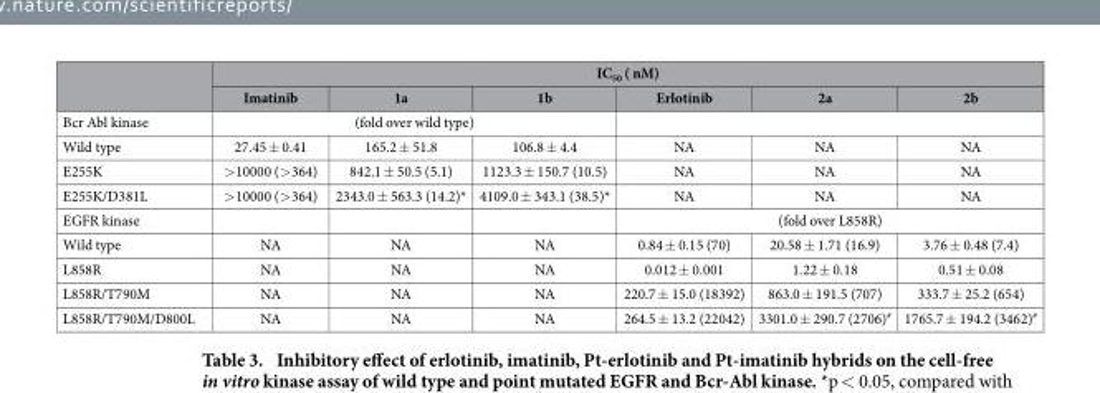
<table><thead><tr><td rowspan="2"></td><td colspan="6">IC50 ( nM)</td></tr><tr><td>Imatinib</td><td>1a</td><td>1b</td><td>Erlotinib</td><td>2a</td><td>2b</td></tr></thead><tbody><tr><td>Bcr Abl kinase</td><td colspan="3">(fold over wild type)</td><td colspan="3"></td></tr><tr><td>Wild type</td><td>27.45 ± 0.41</td><td>165.2 ± 51.8</td><td>106.8 ± 4.4</td><td>NA</td><td>NA</td><td>NA</td></tr><tr><td>E255K</td><td>&gt; 10000 (&gt; 364)</td><td>842.1 ± 50.5 (5.1)</td><td>1123.3 ± 150.7 (10.5)</td><td>NA</td><td>NA</td><td>NA</td></tr><tr><td>E255K/D381L</td><td>&gt; 10000 (&gt; 364)</td><td>2343.0 ± 563.3 (14.2)*</td><td>4109.0 ± 343.1 (38.5)*</td><td>NA</td><td>NA</td><td>NA</td></tr><tr><td>EGFR kinase</td><td></td><td></td><td></td><td colspan="3">(fold over L858R)</td></tr><tr><td>Wild type</td><td>NA</td><td>NA</td><td>NA</td><td>0.84 ± 0.15 (70)</td><td>20.58 ± 1.71 (16.9)</td><td>3.76 ± 0.48 (7.4)</td></tr><tr><td>L858R</td><td>NA</td><td>NA</td><td>NA</td><td>0.012 ± 0.001</td><td>1.22 ± 0.18</td><td>0.51 ± 0.08</td></tr><tr><td>L858R/T790M</td><td>NA</td><td>NA</td><td>NA</td><td>220.7 ± 15.0 (18392)</td><td>863.0 ± 191.5 (707)</td><td>333.7 ± 25.2 (654)</td></tr><tr><td>L858R/T790M/D800L</td><td>NA</td><td>NA</td><td>NA</td><td>264.5 ± 13.2 (22042)</td><td>3301.0 ± 290.7 (2706)<sup>#</sup></td><td>1765.7 ± 194.2 (3462)<sup>#</sup></td></tr></tbody></table>